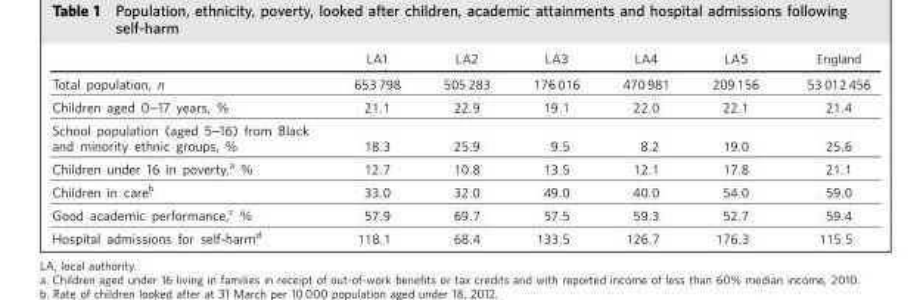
<table><thead><tr><td></td><td>LA1</td><td>LA2</td><td>LA3</td><td>LA4</td><td>LA5</td><td>England</td></tr></thead><tbody><tr><td>Total population, n</td><td>653 798</td><td>505 283</td><td>176 016</td><td>470 981</td><td>209 156</td><td>53 012 456</td></tr><tr><td>Children aged 0-17 years, %</td><td>21.1</td><td>22.9</td><td>19.1</td><td>22.0</td><td>22.1</td><td>21.4</td></tr><tr><td>School population (aged 5-16) from Black and minority ethnic groups, %</td><td>18.3</td><td>25.9</td><td>9.5</td><td>8.2</td><td>19.0</td><td>25.6</td></tr><tr><td>Children under 16 in poverty,<sup>a</sup> %</td><td>12.7</td><td>10.8</td><td>13.5</td><td>12.1</td><td>17.8</td><td>21.1</td></tr><tr><td>Children in care<sup>b</sup></td><td>33.0</td><td>32.0</td><td>49.0</td><td>40.0</td><td>54.0</td><td>59.0</td></tr><tr><td>Good academic performance,<sup>c</sup> %</td><td>57.9</td><td>69.7</td><td>57.5</td><td>59.3</td><td>52.7</td><td>59.4</td></tr><tr><td>Hospital admissions for self-harm<sup>d</sup></td><td>118.1</td><td>68.4</td><td>133.5</td><td>126.7</td><td>176.3</td><td>115.5</td></tr></tbody></table>